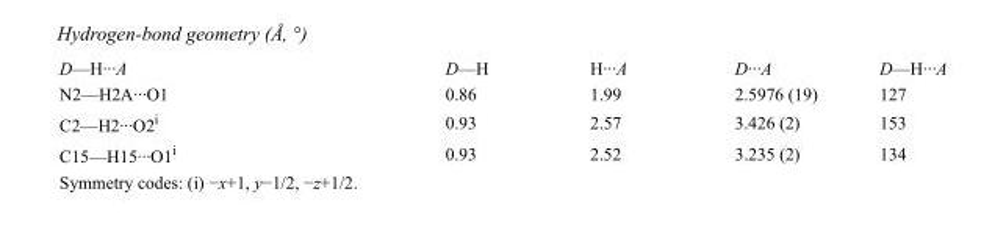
<table><tbody><tr><td>D—H···A</td><td>D—H</td><td>H···A</td><td>D···A</td><td>D—H···A</td></tr><tr><td>N2—H2A···O1</td><td>0.86</td><td>1.99</td><td>2.5976 (19)</td><td>127</td></tr><tr><td>C2—H2···O2<sup>i</sup></td><td>0.93</td><td>2.57</td><td>3.426 (2)</td><td>153</td></tr><tr><td>C15—H15···O1<sup>i</sup></td><td>0.93</td><td>2.52</td><td>3.235 (2)</td><td>134</td></tr></tbody></table>